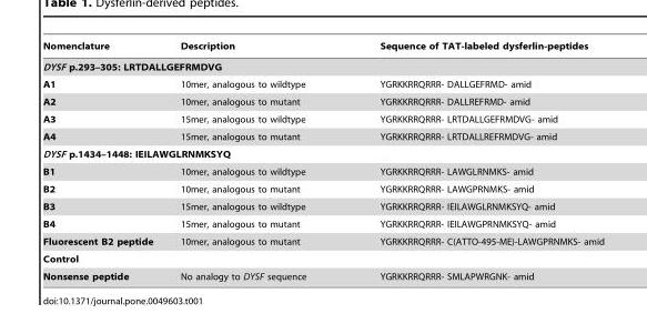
<table><thead><tr><td>Nomenclature</td><td>Description</td><td>Sequence of TAT-labeled dysferlin-peptides</td></tr></thead><tbody><tr><td colspan="3">DYSF p.293–305: LRTDALLGEFRMDVG</td></tr><tr><td>A1</td><td>10mer, analogous to wildtype</td><td>YGRKKRRQRRR- DALLGEFRMD- amid</td></tr><tr><td>A2</td><td>10mer, analogous to mutant</td><td>YGRKKRRQRRR- DALLREFRMD- amid</td></tr><tr><td>A3</td><td>15mer, analogous to wildtype</td><td>YGRKKRRQRRR- LRTDALLGEFRMDVG- amid</td></tr><tr><td>A4</td><td>15mer, analogous to mutant</td><td>YGRKKRRQRRR- LRTDALLREFRMDVG- amid</td></tr><tr><td colspan="3">DYSF p.1434–1448: IEILAWGLRNMKSYQ</td></tr><tr><td>B1</td><td>10mer, analogous to wildtype</td><td>YGRKKRRQRRR- LAWGLRNMKS- amid</td></tr><tr><td>B2</td><td>10mer, analogous to mutant</td><td>YGRKKRRQRRR- LAWGPRNMKS- amid</td></tr><tr><td>B3</td><td>15mer, analogous to wildtype</td><td>YGRKKRRQRRR- IEILAWGLRNMKSYQ- amid</td></tr><tr><td>B4</td><td>15mer, analogous to mutant</td><td>YGRKKRRQRRR- IEILAWGPRNMKSYQ- amid</td></tr><tr><td>Fluorescent B2 peptide</td><td>10mer, analogous to mutant</td><td>YGRKKRRQRRR- C(ATTO-495-ME)-LAWGPRNMKS- amid</td></tr><tr><td colspan="3">Control</td></tr><tr><td>Nonsense peptide</td><td>No analogy to DYSF sequence</td><td>YGRKKRRQRRR- SMLAPWRGNK- amid</td></tr></tbody></table>